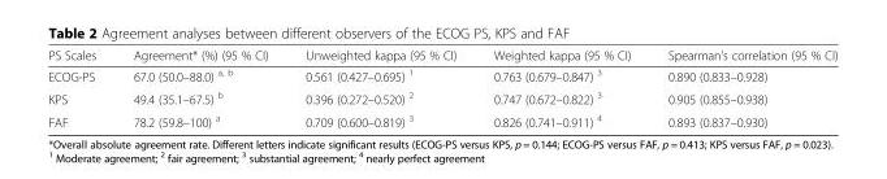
<table><thead><tr><td>PS Scales</td><td>Agreement* (%) (95 % CI)</td><td>Unweighted kappa (95 % CI)</td><td>Weighted kappa (95 % CI)</td><td>Spearman’s correlation (95 % CI)</td></tr></thead><tbody><tr><td>ECOG-PS</td><td>67.0 (50.0–88.0) <sup>a, b</sup></td><td>0.561 (0.427–0.695) <sup>1</sup></td><td>0.763 (0.679–0.847) <sup>3</sup></td><td>0.890 (0.833–0.928)</td></tr><tr><td>KPS</td><td>49.4 (35.1–67.5) <sup>b</sup></td><td>0.396 (0.272–0.520) <sup>2</sup></td><td>0.747 (0.672–0.822) <sup>3</sup></td><td>0.905 (0.855–0.938)</td></tr><tr><td>FAF</td><td>78.2 (59.8–100) <sup>a</sup></td><td>0.709 (0.600–0.819) <sup>3</sup></td><td>0.826 (0.741–0.911) <sup>4</sup></td><td>0.893 (0.837–0.930)</td></tr></tbody></table>